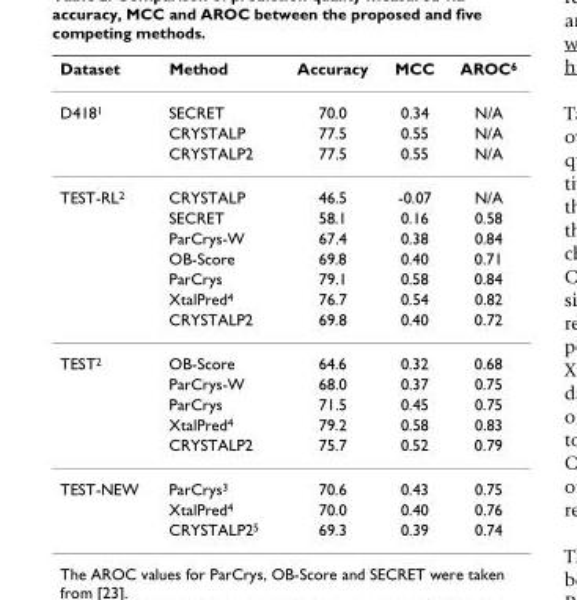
<table><thead><tr><td>Dataset</td><td>Method</td><td>Accuracy</td><td>MCC</td><td>AROC<sup>6</sup></td></tr></thead><tbody><tr><td rowspan="3">D418<sup>1</sup></td><td>SECRET</td><td>70.0</td><td>0.34</td><td>N/A</td></tr><tr><td>CRYSTALP</td><td>77.5</td><td>0.55</td><td>N/A</td></tr><tr><td>CRYSTALP2</td><td>77.5</td><td>0.55</td><td>N/A</td></tr><tr><td rowspan="7">TEST-RL<sup>2</sup></td><td>CRYSTALP</td><td>46.5</td><td>-0.07</td><td>N/A</td></tr><tr><td>SECRET</td><td>58.1</td><td>0.16</td><td>0.58</td></tr><tr><td>ParCrys-W</td><td>67.4</td><td>0.38</td><td>0.84</td></tr><tr><td>OB-Score</td><td>69.8</td><td>0.40</td><td>0.71</td></tr><tr><td>ParCrys</td><td>79.1</td><td>0.58</td><td>0.84</td></tr><tr><td>XtalPred<sup>4</sup></td><td>76.7</td><td>0.54</td><td>0.82</td></tr><tr><td>CRYSTALP2</td><td>69.8</td><td>0.40</td><td>0.72</td></tr><tr><td rowspan="5">TEST<sup>2</sup></td><td>OB-Score</td><td>64.6</td><td>0.32</td><td>0.68</td></tr><tr><td>ParCrys-W</td><td>68.0</td><td>0.37</td><td>0.75</td></tr><tr><td>ParCrys</td><td>71.5</td><td>0.45</td><td>0.75</td></tr><tr><td>XtalPred<sup>4</sup></td><td>79.2</td><td>0.58</td><td>0.83</td></tr><tr><td>CRYSTALP2</td><td>75.7</td><td>0.52</td><td>0.79</td></tr><tr><td rowspan="3">TEST-NEW</td><td>ParCrys<sup>3</sup></td><td>70.6</td><td>0.43</td><td>0.75</td></tr><tr><td>XtalPred<sup>4</sup></td><td>70.0</td><td>0.40</td><td>0.76</td></tr><tr><td>CRYSTALP2<sup>5</sup></td><td>69.3</td><td>0.39</td><td>0.74</td></tr></tbody></table>